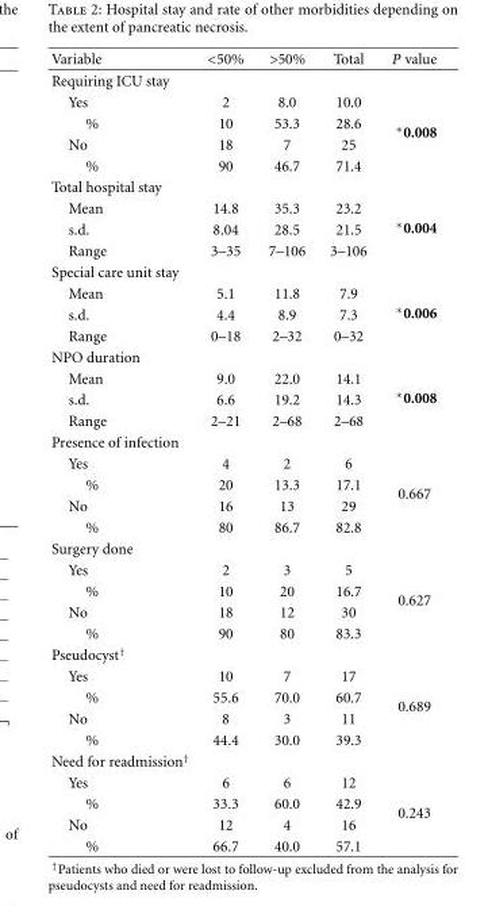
<table><thead><tr><td>Variable</td><td>&lt;50%</td><td>&gt;50%</td><td>Total</td><td>P value</td></tr></thead><tbody><tr><td colspan="5">Requiring ICU stay</td></tr><tr><td>Yes</td><td>2</td><td>8.0</td><td>10.0</td><td rowspan="4">∗0.008</td></tr><tr><td>%</td><td>10</td><td>53.3</td><td>28.6</td></tr><tr><td>No</td><td>18</td><td>7</td><td>25</td></tr><tr><td>%</td><td>90</td><td>46.7</td><td>71.4</td></tr><tr><td colspan="5">Total hospital stay</td></tr><tr><td>Mean</td><td>14.8</td><td>35.3</td><td>23.2</td><td rowspan="3">∗0.004</td></tr><tr><td>s.d.</td><td>8.04</td><td>28.5</td><td>21.5</td></tr><tr><td>Range</td><td>3–35</td><td>7–106</td><td>3–106</td></tr><tr><td colspan="5">Special care unit stay</td></tr><tr><td>Mean</td><td>5.1</td><td>11.8</td><td>7.9</td><td rowspan="3">∗0.006</td></tr><tr><td>s.d.</td><td>4.4</td><td>8.9</td><td>7.3</td></tr><tr><td>Range</td><td>0–18</td><td>2–32</td><td>0–32</td></tr><tr><td colspan="5">NPO duration</td></tr><tr><td>Mean</td><td>9.0</td><td>22.0</td><td>14.1</td><td rowspan="3">∗0.008</td></tr><tr><td>s.d.</td><td>6.6</td><td>19.2</td><td>14.3</td></tr><tr><td>Range</td><td>2–21</td><td>2–68</td><td>2–68</td></tr><tr><td colspan="5">Presence of infection</td></tr><tr><td>Yes</td><td>4</td><td>2</td><td>6</td><td rowspan="4">0.667</td></tr><tr><td>%</td><td>20</td><td>13.3</td><td>17.1</td></tr><tr><td>No</td><td>16</td><td>13</td><td>29</td></tr><tr><td>%</td><td>80</td><td>86.7</td><td>82.8</td></tr><tr><td colspan="5">Surgery done</td></tr><tr><td>Yes</td><td>2</td><td>3</td><td>5</td><td rowspan="4">0.627</td></tr><tr><td>%</td><td>10</td><td>20</td><td>16.7</td></tr><tr><td>No</td><td>18</td><td>12</td><td>30</td></tr><tr><td>%</td><td>90</td><td>80</td><td>83.3</td></tr><tr><td colspan="5">Pseudocyst<sup>†</sup></td></tr><tr><td>Yes</td><td>10</td><td>7</td><td>17</td><td rowspan="4">0.689</td></tr><tr><td>%</td><td>55.6</td><td>70.0</td><td>60.7</td></tr><tr><td>No</td><td>8</td><td>3</td><td>11</td></tr><tr><td>%</td><td>44.4</td><td>30.0</td><td>39.3</td></tr><tr><td colspan="5">Need for readmission<sup>†</sup></td></tr><tr><td>Yes</td><td>6</td><td>6</td><td>12</td><td rowspan="4">0.243</td></tr><tr><td>%</td><td>33.3</td><td>60.0</td><td>42.9</td></tr><tr><td>No</td><td>12</td><td>4</td><td>16</td></tr><tr><td>%</td><td>66.7</td><td>40.0</td><td>57.1</td></tr></tbody></table>